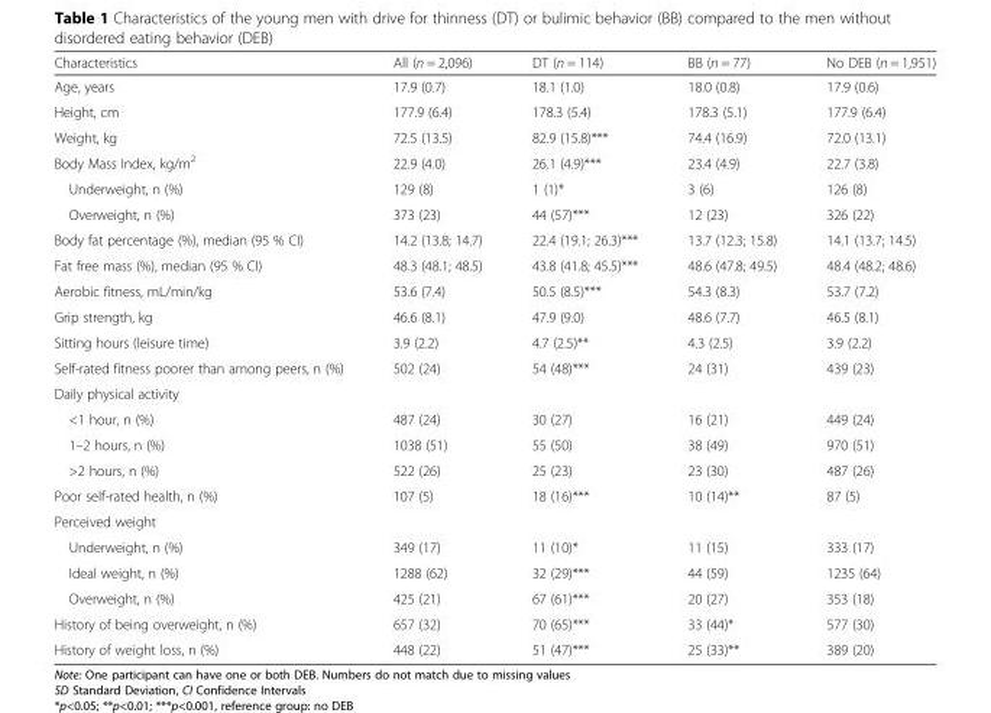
<table><thead><tr><td>Characteristics</td><td>All (n = 2,096)</td><td>DT (n = 114)</td><td>BB (n = 77)</td><td>No DEB (n = 1,951)</td></tr></thead><tbody><tr><td>Age, years</td><td>17.9 (0.7)</td><td>18.1 (1.0)</td><td>18.0 (0.8)</td><td>17.9 (0.6)</td></tr><tr><td>Height, cm</td><td>177.9 (6.4)</td><td>178.3 (5.4)</td><td>178.3 (5.1)</td><td>177.9 (6.4)</td></tr><tr><td>Weight, kg</td><td>72.5 (13.5)</td><td>82.9 (15.8)***</td><td>74.4 (16.9)</td><td>72.0 (13.1)</td></tr><tr><td>Body Mass Index, kg/m<sup>2</sup></td><td>22.9 (4.0)</td><td>26.1 (4.9)***</td><td>23.4 (4.9)</td><td>22.7 (3.8)</td></tr><tr><td>Underweight, n (%)</td><td>129 (8)</td><td>1 (1)*</td><td>3 (6)</td><td>126 (8)</td></tr><tr><td>Overweight, n (%)</td><td>373 (23)</td><td>44 (57)***</td><td>12 (23)</td><td>326 (22)</td></tr><tr><td>Body fat percentage (%), median (95 % CI)</td><td>14.2 (13.8; 14.7)</td><td>22.4 (19.1; 26.3)***</td><td>13.7 (12.3; 15.8)</td><td>14.1 (13.7; 14.5)</td></tr><tr><td>Fat free mass (%), median (95 % CI)</td><td>48.3 (48.1; 48.5)</td><td>43.8 (41.8; 45.5)***</td><td>48.6 (47.8; 49.5)</td><td>48.4 (48.2; 48.6)</td></tr><tr><td>Aerobic fitness, mL/min/kg</td><td>53.6 (7.4)</td><td>50.5 (8.5)***</td><td>54.3 (8.3)</td><td>53.7 (7.2)</td></tr><tr><td>Grip strength, kg</td><td>46.6 (8.1)</td><td>47.9 (9.0)</td><td>48.6 (7.7)</td><td>46.5 (8.1)</td></tr><tr><td>Sitting hours (leisure time)</td><td>3.9 (2.2)</td><td>4.7 (2.5)**</td><td>4.3 (2.5)</td><td>3.9 (2.2)</td></tr><tr><td>Self-rated fitness poorer than among peers, n (%)</td><td>502 (24)</td><td>54 (48)***</td><td>24 (31)</td><td>439 (23)</td></tr><tr><td colspan="5">Daily physical activity</td></tr><tr><td>&lt;1 hour, n (%)</td><td>487 (24)</td><td>30 (27)</td><td>16 (21)</td><td>449 (24)</td></tr><tr><td>1–2 hours, n (%)</td><td>1038 (51)</td><td>55 (50)</td><td>38 (49)</td><td>970 (51)</td></tr><tr><td>&gt;2 hours, n (%)</td><td>522 (26)</td><td>25 (23)</td><td>23 (30)</td><td>487 (26)</td></tr><tr><td>Poor self-rated health, n (%)</td><td>107 (5)</td><td>18 (16)***</td><td>10 (14)**</td><td>87 (5)</td></tr><tr><td colspan="5">Perceived weight</td></tr><tr><td>Underweight, n (%)</td><td>349 (17)</td><td>11 (10)*</td><td>11 (15)</td><td>333 (17)</td></tr><tr><td>Ideal weight, n (%)</td><td>1288 (62)</td><td>32 (29)***</td><td>44 (59)</td><td>1235 (64)</td></tr><tr><td>Overweight, n (%)</td><td>425 (21)</td><td>67 (61)***</td><td>20 (27)</td><td>353 (18)</td></tr><tr><td>History of being overweight, n (%)</td><td>657 (32)</td><td>70 (65)***</td><td>33 (44)*</td><td>577 (30)</td></tr><tr><td>History of weight loss, n (%)</td><td>448 (22)</td><td>51 (47)***</td><td>25 (33)**</td><td>389 (20)</td></tr></tbody></table>